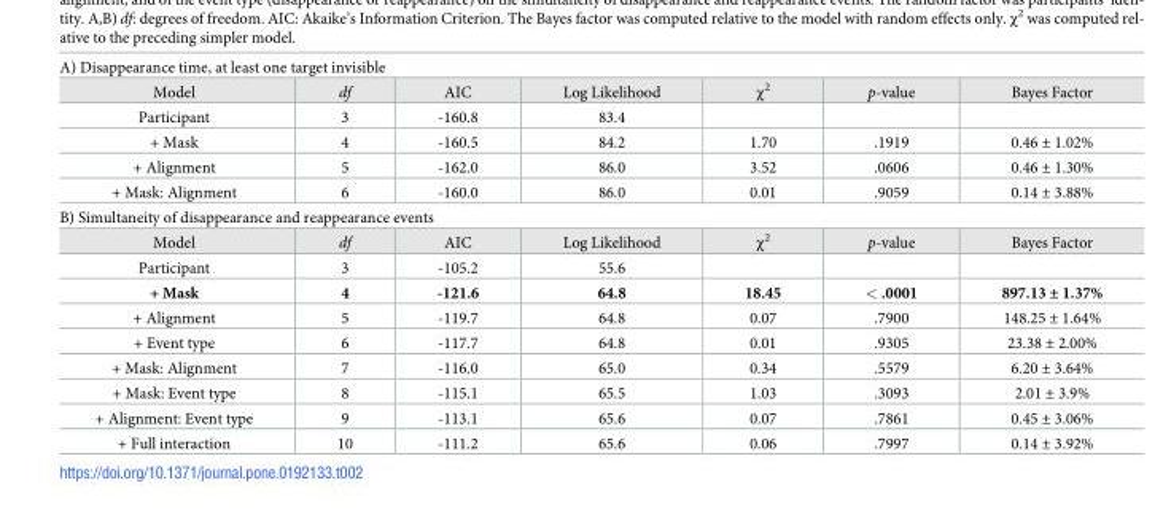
<table><tbody><tr><td colspan="7">A) Disappearance time, at least one target invisible</td></tr><tr><td>Model</td><td>df</td><td>AIC</td><td>Log Likelihood</td><td>χ<sup>2</sup></td><td>p-value</td><td>Bayes Factor</td></tr><tr><td>Participant</td><td>3</td><td>-160.8</td><td>83.4</td><td></td><td></td><td></td></tr><tr><td>+ Mask</td><td>4</td><td>-160.5</td><td>84.2</td><td>1.70</td><td>.1919</td><td>0.46 ± 1.02%</td></tr><tr><td>+ Alignment</td><td>5</td><td>-162.0</td><td>86.0</td><td>3.52</td><td>.0606</td><td>0.46 ± 1.30%</td></tr><tr><td>+ Mask: Alignment</td><td>6</td><td>-160.0</td><td>86.0</td><td>0.01</td><td>.9059</td><td>0.14 ± 3.88%</td></tr><tr><td colspan="7">B) Simultaneity of disappearance and reappearance events</td></tr><tr><td>Model</td><td>df</td><td>AIC</td><td>Log Likelihood</td><td>χ<sup>2</sup></td><td>p-value</td><td>Bayes Factor</td></tr><tr><td>Participant</td><td>3</td><td>-105.2</td><td>55.6</td><td></td><td></td><td></td></tr><tr><td>+ Mask</td><td>4</td><td>-121.6</td><td>64.8</td><td>18.45</td><td>&lt; .0001</td><td>897.13 ± 1.37%</td></tr><tr><td>+ Alignment</td><td>5</td><td>-119.7</td><td>64.8</td><td>0.07</td><td>.7900</td><td>148.25 ± 1.64%</td></tr><tr><td>+ Event type</td><td>6</td><td>-117.7</td><td>64.8</td><td>0.01</td><td>.9305</td><td>23.38 ± 2.00%</td></tr><tr><td>+ Mask: Alignment</td><td>7</td><td>-116.0</td><td>65.0</td><td>0.34</td><td>.5579</td><td>6.20 ± 3.64%</td></tr><tr><td>+ Mask: Event type</td><td>8</td><td>-115.1</td><td>65.5</td><td>1.03</td><td>.3093</td><td>2.01 ± 3.9%</td></tr><tr><td>+ Alignment: Event type</td><td>9</td><td>-113.1</td><td>65.6</td><td>0.07</td><td>.7861</td><td>0.45 ± 3.06%</td></tr><tr><td>+ Full interaction</td><td>10</td><td>-111.2</td><td>65.6</td><td>0.06</td><td>.7997</td><td>0.14 ± 3.92%</td></tr></tbody></table>